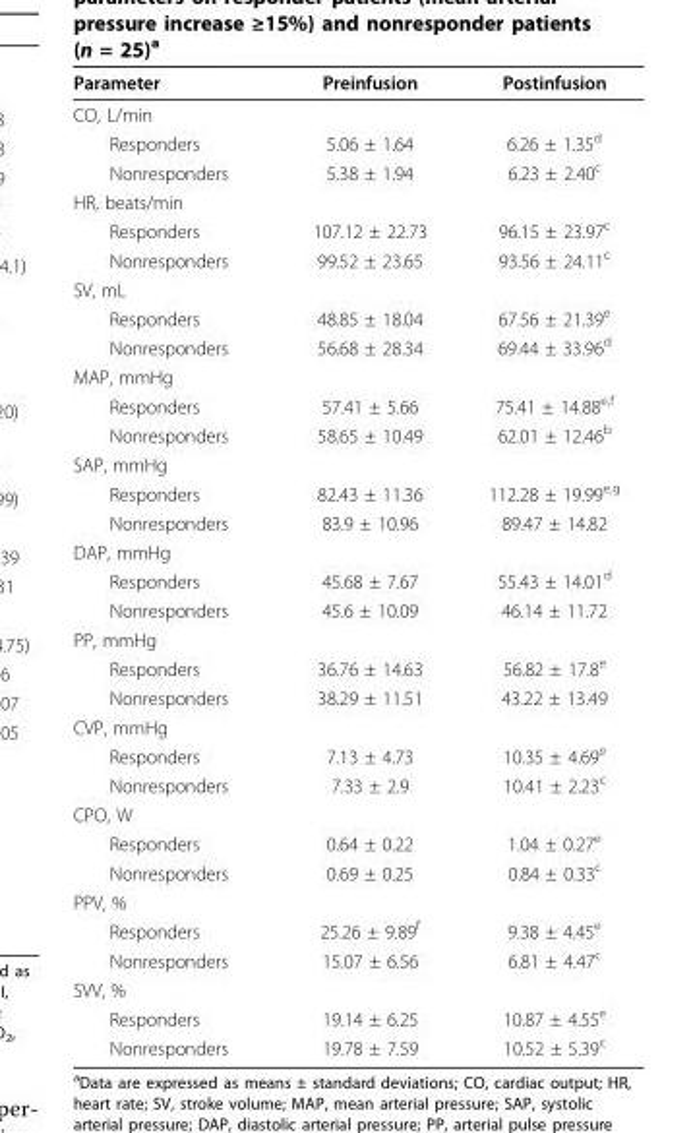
<table><thead><tr><td>Parameter</td><td>Preinfusion</td><td>Postinfusion</td></tr></thead><tbody><tr><td colspan="3">CO, L/min</td></tr><tr><td>Responders</td><td>5.06 ± 1.64</td><td>6.26 ± 1.35<sup>d</sup></td></tr><tr><td>Nonresponders</td><td>5.38 ± 1.94</td><td>6.23 ± 2.40<sup>c</sup></td></tr><tr><td colspan="3">HR, beats/min</td></tr><tr><td>Responders</td><td>107.12 ± 22.73</td><td>96.15 ± 23.97<sup>c</sup></td></tr><tr><td>Nonresponders</td><td>99.52 ± 23.65</td><td>93.56 ± 24.11<sup>c</sup></td></tr><tr><td colspan="3">SV, mL</td></tr><tr><td>Responders</td><td>48.85 ± 18.04</td><td>67.56 ± 21.39<sup>e</sup></td></tr><tr><td>Nonresponders</td><td>56.68 ± 28.34</td><td>69.44 ± 33.96<sup>d</sup></td></tr><tr><td colspan="3">MAP, mmHg</td></tr><tr><td>Responders</td><td>57.41 ± 5.66</td><td>75.41 ± 14.88<sup>e,f</sup></td></tr><tr><td>Nonresponders</td><td>58.65 ± 10.49</td><td>62.01 ± 12.46<sup>b</sup></td></tr><tr><td colspan="3">SAP, mmHg</td></tr><tr><td>Responders</td><td>82.43 ± 11.36</td><td>112.28 ± 19.99<sup>e,g</sup></td></tr><tr><td>Nonresponders</td><td>83.9 ± 10.96</td><td>89.47 ± 14.82</td></tr><tr><td colspan="3">DAP, mmHg</td></tr><tr><td>Responders</td><td>45.68 ± 7.67</td><td>55.43 ± 14.01<sup>d</sup></td></tr><tr><td>Nonresponders</td><td>45.6 ± 10.09</td><td>46.14 ± 11.72</td></tr><tr><td colspan="3">PP, mmHg</td></tr><tr><td>Responders</td><td>36.76 ± 14.63</td><td>56.82 ± 17.8<sup>e</sup></td></tr><tr><td>Nonresponders</td><td>38.29 ± 11.51</td><td>43.22 ± 13.49</td></tr><tr><td colspan="3">CVP, mmHg</td></tr><tr><td>Responders</td><td>7.13 ± 4.73</td><td>10.35 ± 4.69<sup>e</sup></td></tr><tr><td>Nonresponders</td><td>7.33 ± 2.9</td><td>10.41 ± 2.23<sup>c</sup></td></tr><tr><td colspan="3">CPO, W</td></tr><tr><td>Responders</td><td>0.64 ± 0.22</td><td>1.04 ± 0.27<sup>e</sup></td></tr><tr><td>Nonresponders</td><td>0.69 ± 0.25</td><td>0.84 ± 0.33<sup>c</sup></td></tr><tr><td colspan="3">PPV, %</td></tr><tr><td>Responders</td><td>25.26 ± 9.89<sup>f</sup></td><td>9.38 ± 4.45<sup>e</sup></td></tr><tr><td>Nonresponders</td><td>15.07 ± 6.56</td><td>6.81 ± 4.47<sup>c</sup></td></tr><tr><td colspan="3">SVV, %</td></tr><tr><td>Responders</td><td>19.14 ± 6.25</td><td>10.87 ± 4.55<sup>e</sup></td></tr><tr><td>Nonresponders</td><td>19.78 ± 7.59</td><td>10.52 ± 5.39<sup>c</sup></td></tr></tbody></table>